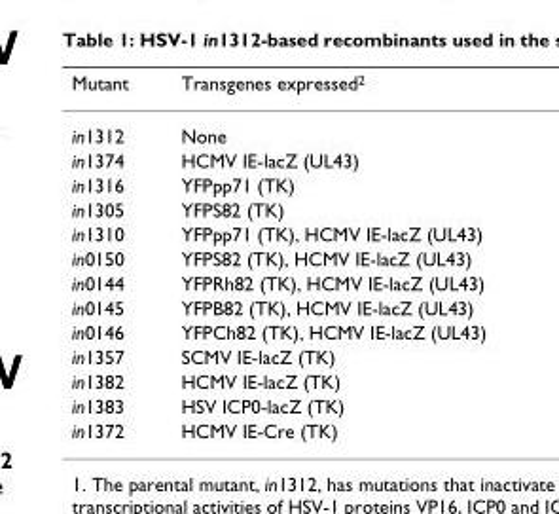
<table><thead><tr><td>Mutant</td><td>Transgenes expressed<sup>2</sup></td></tr></thead><tbody><tr><td>in1312</td><td>None</td></tr><tr><td>in1374</td><td>HCMV IE-lacZ (UL43)</td></tr><tr><td>in1316</td><td>YFPpp71 (TK)</td></tr><tr><td>in1305</td><td>YFPS82 (TK)</td></tr><tr><td>in1310</td><td>YFPpp71 (TK), HCMV IE-lacZ (UL43)</td></tr><tr><td>in0150</td><td>YFPS82 (TK), HCMV IE-lacZ (UL43)</td></tr><tr><td>in0144</td><td>YFPRh82 (TK), HCMV IE-lacZ (UL43)</td></tr><tr><td>in0145</td><td>YFPB82 (TK), HCMV IE-lacZ (UL43)</td></tr><tr><td>in0146</td><td>YFPCh82 (TK), HCMV IE-lacZ (UL43)</td></tr><tr><td>in1357</td><td>SCMV IE-lacZ (TK)</td></tr><tr><td>in1382</td><td>HCMV IE-lacZ (TK)</td></tr><tr><td>in1383</td><td>HSV ICP0-lacZ (TK)</td></tr><tr><td>in1372</td><td>HCMV IE-Cre (TK)</td></tr></tbody></table>